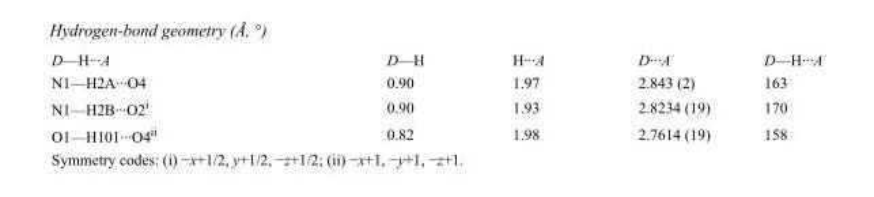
<table><tbody><tr><td>D—H···A</td><td>D—H</td><td>H···A</td><td>D···A</td><td>D—H···A</td></tr><tr><td>N1—H2A···O4</td><td>0.90</td><td>1.97</td><td>2.843 (2)</td><td>163</td></tr><tr><td>N1—H2B···O2<sup>i</sup></td><td>0.90</td><td>1.93</td><td>2.8234 (19)</td><td>170</td></tr><tr><td>O1—H101···O4<sup>ii</sup></td><td>0.82</td><td>1.98</td><td>2.7614 (19)</td><td>158</td></tr></tbody></table>